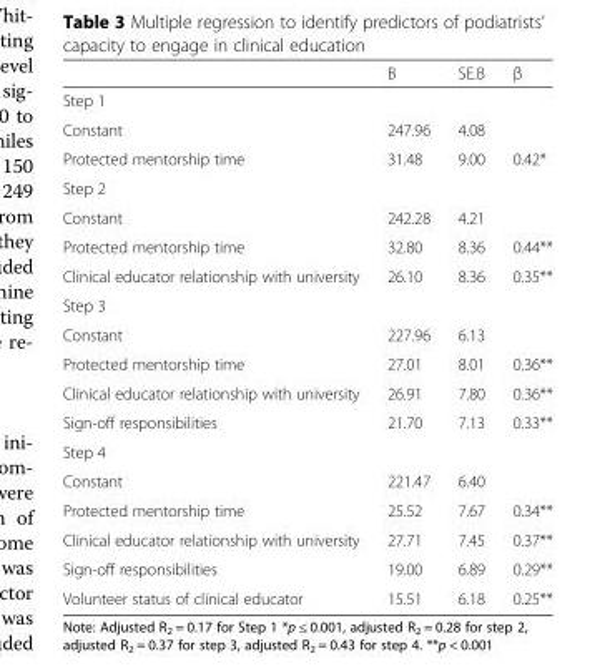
<table><thead><tr><td></td><td>B</td><td>SE.B</td><td>β</td></tr></thead><tbody><tr><td colspan="4">Step 1</td></tr><tr><td>Constant</td><td>247.96</td><td>4.08</td><td></td></tr><tr><td>Protected mentorship time</td><td>31.48</td><td>9.00</td><td>0.42*</td></tr><tr><td colspan="4">Step 2</td></tr><tr><td>Constant</td><td>242.28</td><td>4.21</td><td></td></tr><tr><td>Protected mentorship time</td><td>32.80</td><td>8.36</td><td>0.44**</td></tr><tr><td>Clinical educator relationship with university</td><td>26.10</td><td>8.36</td><td>0.35**</td></tr><tr><td colspan="4">Step 3</td></tr><tr><td>Constant</td><td>227.96</td><td>6.13</td><td></td></tr><tr><td>Protected mentorship time</td><td>27.01</td><td>8.01</td><td>0.36**</td></tr><tr><td>Clinical educator relationship with university</td><td>26.91</td><td>7.80</td><td>0.36**</td></tr><tr><td>Sign-off responsibilities</td><td>21.70</td><td>7.13</td><td>0.33**</td></tr><tr><td colspan="4">Step 4</td></tr><tr><td>Constant</td><td>221.47</td><td>6.40</td><td></td></tr><tr><td>Protected mentorship time</td><td>25.52</td><td>7.67</td><td>0.34**</td></tr><tr><td>Clinical educator relationship with university</td><td>27.71</td><td>7.45</td><td>0.37**</td></tr><tr><td>Sign-off responsibilities</td><td>19.00</td><td>6.89</td><td>0.29**</td></tr><tr><td>Volunteer status of clinical educator</td><td>15.51</td><td>6.18</td><td>0.25**</td></tr></tbody></table>